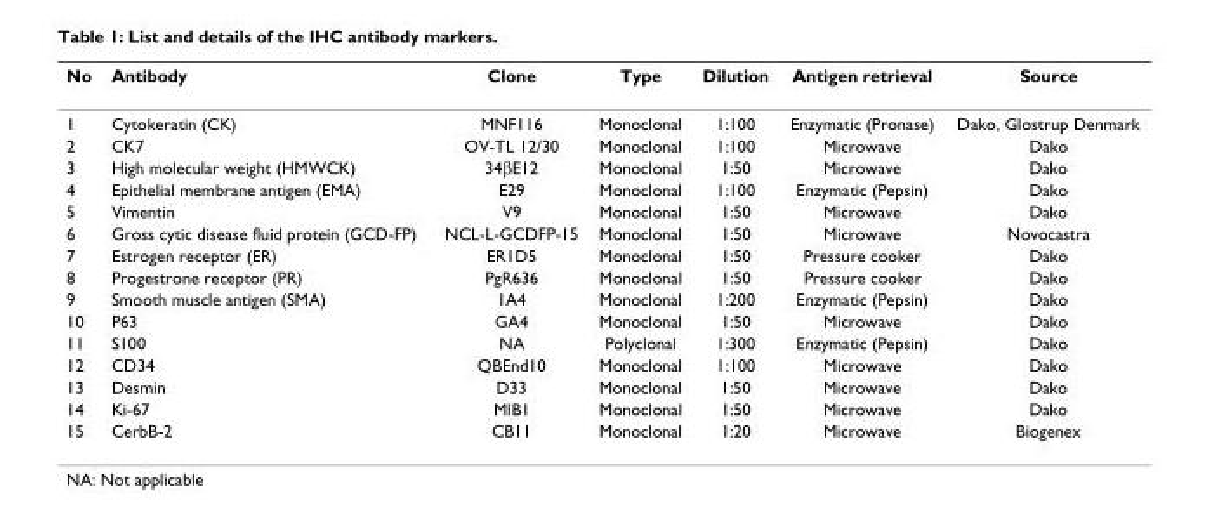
<table><thead><tr><td>No</td><td>Antibody</td><td>Clone</td><td>Type</td><td>Dilution</td><td>Antigen retrieval</td><td>Source</td></tr></thead><tbody><tr><td>1</td><td>Cytokeratin (CK)</td><td>MNF116</td><td>Monoclonal</td><td>1:100</td><td>Enzymatic (Pronase)</td><td>Dako, Glostrup Denmark</td></tr><tr><td>2</td><td>CK7</td><td>OV-TL 12/30</td><td>Monoclonal</td><td>1:100</td><td>Microwave</td><td>Dako</td></tr><tr><td>3</td><td>High molecular weight (HMWCK)</td><td>34βE12</td><td>Monoclonal</td><td>1:50</td><td>Microwave</td><td>Dako</td></tr><tr><td>4</td><td>Epithelial membrane antigen (EMA)</td><td>E29</td><td>Monoclonal</td><td>1:100</td><td>Enzymatic (Pepsin)</td><td>Dako</td></tr><tr><td>5</td><td>Vimentin</td><td>V9</td><td>Monoclonal</td><td>1:50</td><td>Microwave</td><td>Dako</td></tr><tr><td>6</td><td>Gross cytic disease fluid protein (GCD-FP)</td><td>NCL-L-GCDFP-15</td><td>Monoclonal</td><td>1:50</td><td>Microwave</td><td>Novocastra</td></tr><tr><td>7</td><td>Estrogen receptor (ER)</td><td>ER1D5</td><td>Monoclonal</td><td>1:50</td><td>Pressure cooker</td><td>Dako</td></tr><tr><td>8</td><td>Progestrone receptor (PR)</td><td>PgR636</td><td>Monoclonal</td><td>1:50</td><td>Pressure cooker</td><td>Dako</td></tr><tr><td>9</td><td>Smooth muscle antigen (SMA)</td><td>1A4</td><td>Monoclonal</td><td>1:200</td><td>Enzymatic (Pepsin)</td><td>Dako</td></tr><tr><td>10</td><td>P63</td><td>GA4</td><td>Monoclonal</td><td>1:50</td><td>Microwave</td><td>Dako</td></tr><tr><td>11</td><td>S100</td><td>NA</td><td>Polyclonal</td><td>1:300</td><td>Enzymatic (Pepsin)</td><td>Dako</td></tr><tr><td>12</td><td>CD34</td><td>QBEnd10</td><td>Monoclonal</td><td>1:100</td><td>Microwave</td><td>Dako</td></tr><tr><td>13</td><td>Desmin</td><td>D33</td><td>Monoclonal</td><td>1:50</td><td>Microwave</td><td>Dako</td></tr><tr><td>14</td><td>Ki-67</td><td>MIB1</td><td>Monoclonal</td><td>1:50</td><td>Microwave</td><td>Dako</td></tr><tr><td>15</td><td>CerbB-2</td><td>CB11</td><td>Monoclonal</td><td>1:20</td><td>Microwave</td><td>Biogenex</td></tr></tbody></table>